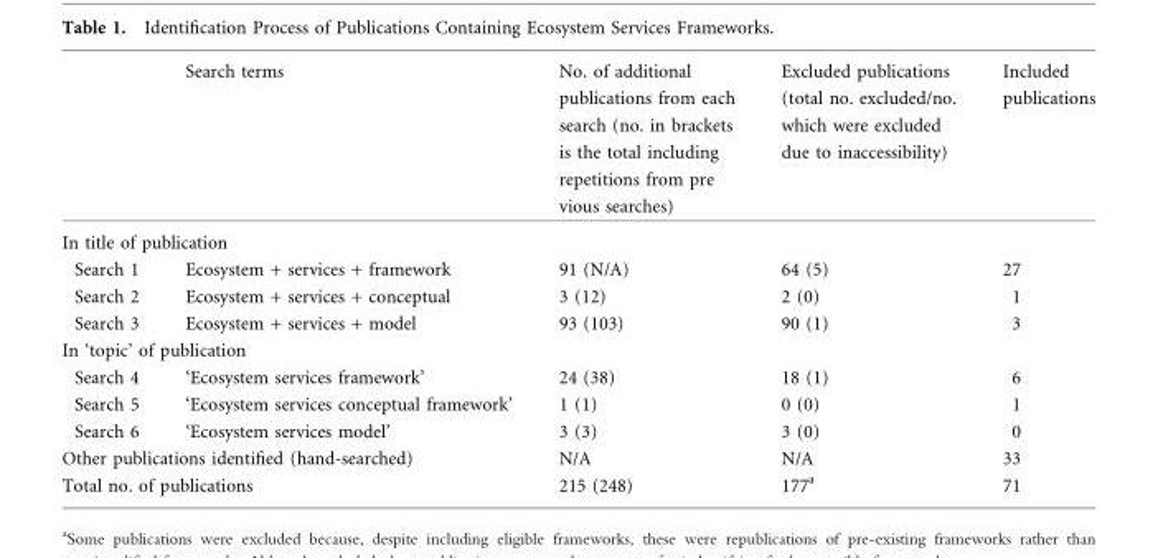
<table><thead><tr><td></td><td>Search terms</td><td>No. of additional publications from each search (no. in brackets is the total including repetitions from pre vious searches)</td><td>Excluded publications (total no. excluded/no. which were excluded due to inaccessibility)</td><td>Included publications</td></tr></thead><tbody><tr><td colspan="5">In title of publication</td></tr><tr><td>Search 1</td><td>Ecosystem + services + framework</td><td>91 (N/A)</td><td>64 (5)</td><td>27</td></tr><tr><td>Search 2</td><td>Ecosystem + services + conceptual</td><td>3 (12)</td><td>2 (0)</td><td>1</td></tr><tr><td>Search 3</td><td>Ecosystem + services + model</td><td>93 (103)</td><td>90 (1)</td><td>3</td></tr><tr><td colspan="5">In ‘topic’ of publication</td></tr><tr><td>Search 4</td><td>‘Ecosystem services framework’</td><td>24 (38)</td><td>18 (1)</td><td>6</td></tr><tr><td>Search 5</td><td>‘Ecosystem services conceptual framework’</td><td>1 (1)</td><td>0 (0)</td><td>1</td></tr><tr><td>Search 6</td><td>‘Ecosystem services model’</td><td>3 (3)</td><td>3 (0)</td><td>0</td></tr><tr><td colspan="2">Other publications identified (hand-searched)</td><td>N/A</td><td>N/A</td><td>33</td></tr><tr><td colspan="2">Total no. of publications</td><td>215 (248)</td><td>177<sup>a</sup></td><td>71</td></tr></tbody></table>